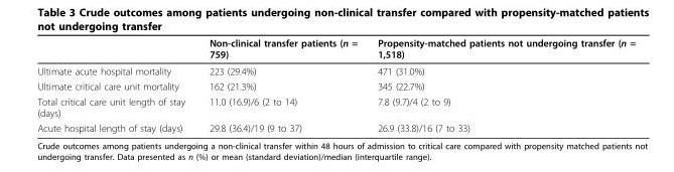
<table><thead><tr><td></td><td>Non-clinical transfer patients (n = 759)</td><td>Propensity-matched patients not undergoing transfer (n = 1,518)</td></tr></thead><tbody><tr><td>Ultimate acute hospital mortality</td><td>223 (29.4%)</td><td>471 (31.0%)</td></tr><tr><td>Ultimate critical care unit mortality</td><td>162 (21.3%)</td><td>345 (22.7%)</td></tr><tr><td>Total critical care unit length of stay (days)</td><td>11.0 (16.9)/6 (2 to 14)</td><td>7.8 (9.7)/4 (2 to 9)</td></tr><tr><td>Acute hospital length of stay (days)</td><td>29.8 (36.4)/19 (9 to 37)</td><td>26.9 (33.8)/16 (7 to 33)</td></tr></tbody></table>